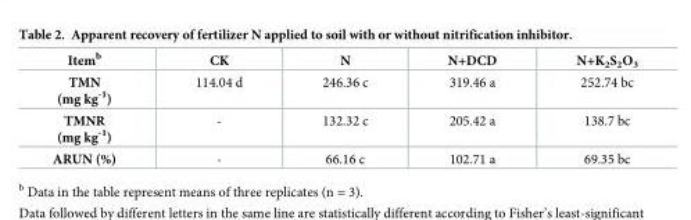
<table><thead><tr><td>Item<sup>b</sup></td><td>CK</td><td>N</td><td>N+DCD</td><td>N+K<sub>2</sub>S<sub>2</sub>O<sub>3</sub></td></tr></thead><tbody><tr><td>TMN (mg kg<sup>-1</sup>)</td><td>114.04 d</td><td>246.36 c</td><td>319.46 a</td><td>252.74 bc</td></tr><tr><td>TMNR (mg kg<sup>-1</sup>)</td><td>-</td><td>132.32 c</td><td>205.42 a</td><td>138.7 bc</td></tr><tr><td>ARUN (%)</td><td>-</td><td>66.16 c</td><td>102.71 a</td><td>69.35 bc</td></tr></tbody></table>